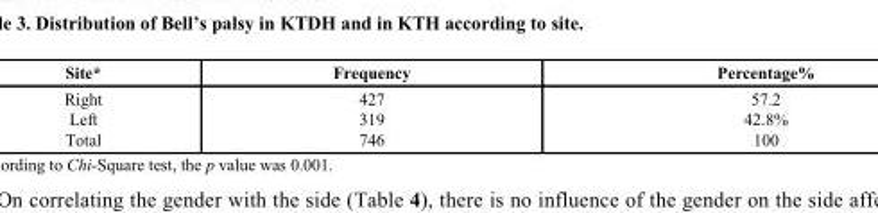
<table><thead><tr><td>Site*</td><td>Frequency</td><td>Percentage%</td></tr></thead><tbody><tr><td>Right Left Total</td><td>427 319 746</td><td>57.2 42.8% 100</td></tr></tbody></table>